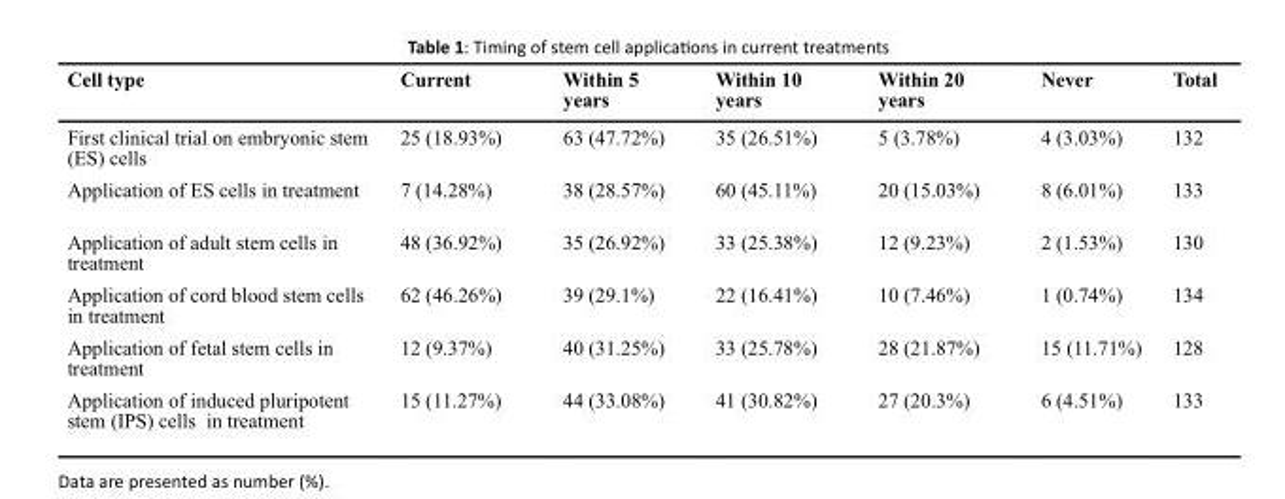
<table><thead><tr><td>Cell type</td><td>Current</td><td>Within 5 years</td><td>Within 10 years</td><td>Within 20 years</td><td>Never</td><td>Total</td></tr></thead><tbody><tr><td>First clinical trial on embryonic stem (ES) cells</td><td>25 (18.93%)</td><td>63 (47.72%)</td><td>35 (26.51%)</td><td>5 (3.78%)</td><td>4 (3.03%)</td><td>132</td></tr><tr><td>Application of ES cells in treatment</td><td>7 (14.28%)</td><td>38 (28.57%)</td><td>60 (45.11%)</td><td>20 (15.03%)</td><td>8 (6.01%)</td><td>133</td></tr><tr><td>Application of adult stem cells in treatment</td><td>48 (36.92%)</td><td>35 (26.92%)</td><td>33 (25.38%)</td><td>12 (9.23%)</td><td>2 (1.53%)</td><td>130</td></tr><tr><td>Application of cord blood stem cells in treatment</td><td>62 (46.26%)</td><td>39 (29.1%)</td><td>22 (16.41%)</td><td>10 (7.46%)</td><td>1 (0.74%)</td><td>134</td></tr><tr><td>Application of fetal stem cells in treatment</td><td>12 (9.37%)</td><td>40 (31.25%)</td><td>33 (25.78%)</td><td>28 (21.87%)</td><td>15 (11.71%)</td><td>128</td></tr><tr><td>Application of induced pluripotent stem (IPS) cells in treatment</td><td>15 (11.27%)</td><td>44 (33.08%)</td><td>41 (30.82%)</td><td>27 (20.3%)</td><td>6 (4.51%)</td><td>133</td></tr></tbody></table>